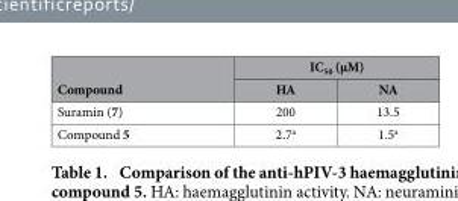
<table><thead><tr><td rowspan="2">Compound</td><td colspan="2">IC<sub>50</sub> (μM)</td></tr><tr><td>HA</td><td>NA</td></tr></thead><tbody><tr><td>Suramin (7)</td><td>200</td><td>13.5</td></tr><tr><td>Compound 5</td><td>2.7<sup>a</sup></td><td>1.5<sup>a</sup></td></tr></tbody></table>